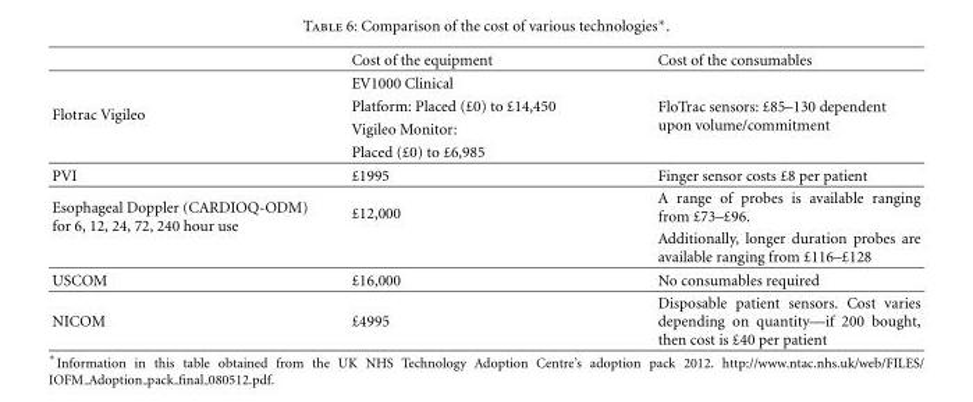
<table><thead><tr><td></td><td>Cost of the equipment</td><td>Cost of the consumables</td></tr></thead><tbody><tr><td rowspan="4">Flotrac Vigileo</td><td>EV1000 Clinical</td><td rowspan="3">FloTrac sensors: £85–130 dependent upon volume/commitment</td></tr><tr><td>Platform: Placed (£0) to £14,450</td></tr><tr><td>Vigileo Monitor:</td></tr><tr><td>Placed (£0) to £6,985</td><td></td></tr><tr><td>PVI</td><td>£1995</td><td>Finger sensor costs £8 per patient</td></tr><tr><td rowspan="2">Esophageal Doppler (CARDIOQ-ODM) for 6, 12, 24, 72, 240 hour use</td><td>£12,000</td><td>A range of probes is available ranging from £73–£96.</td></tr><tr><td></td><td>Additionally, longer duration probes are available ranging from £116–£128</td></tr><tr><td>USCOM</td><td>£16,000</td><td>No consumables required</td></tr><tr><td>NICOM</td><td>£4995</td><td>Disposable patient sensors. Cost varies depending on quantity—if 200 bought, then cost is £40 per patient</td></tr></tbody></table>